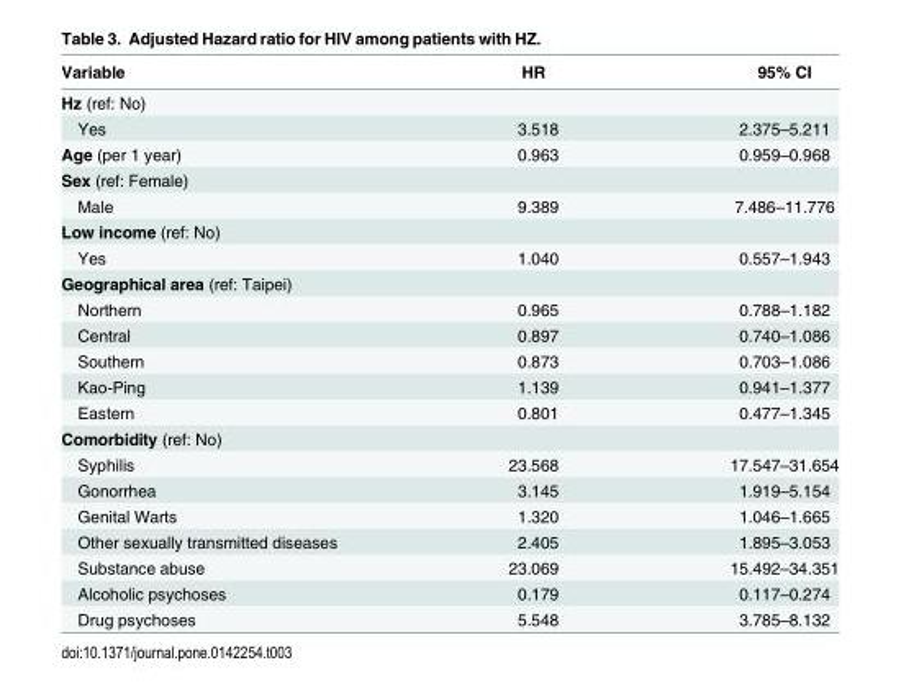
<table><thead><tr><td>Variable</td><td>HR</td><td>95% CI</td></tr></thead><tbody><tr><td colspan="3">Hz (ref: No)</td></tr><tr><td>Yes</td><td>3.518</td><td>2.375–5.211</td></tr><tr><td>Age (per 1 year)</td><td>0.963</td><td>0.959–0.968</td></tr><tr><td colspan="3">Sex (ref: Female)</td></tr><tr><td>Male</td><td>9.389</td><td>7.486–11.776</td></tr><tr><td colspan="3">Low income (ref: No)</td></tr><tr><td>Yes</td><td>1.040</td><td>0.557–1.943</td></tr><tr><td colspan="3">Geographical area (ref: Taipei)</td></tr><tr><td>Northern</td><td>0.965</td><td>0.788–1.182</td></tr><tr><td>Central</td><td>0.897</td><td>0.740–1.086</td></tr><tr><td>Southern</td><td>0.873</td><td>0.703–1.086</td></tr><tr><td>Kao-Ping</td><td>1.139</td><td>0.941–1.377</td></tr><tr><td>Eastern</td><td>0.801</td><td>0.477–1.345</td></tr><tr><td colspan="3">Comorbidity (ref: No)</td></tr><tr><td>Syphilis</td><td>23.568</td><td>17.547–31.654</td></tr><tr><td>Gonorrhea</td><td>3.145</td><td>1.919–5.154</td></tr><tr><td>Genital Warts</td><td>1.320</td><td>1.046–1.665</td></tr><tr><td>Other sexually transmitted diseases</td><td>2.405</td><td>1.895–3.053</td></tr><tr><td>Substance abuse</td><td>23.069</td><td>15.492–34.351</td></tr><tr><td>Alcoholic psychoses</td><td>0.179</td><td>0.117–0.274</td></tr><tr><td>Drug psychoses</td><td>5.548</td><td>3.785–8.132</td></tr></tbody></table>